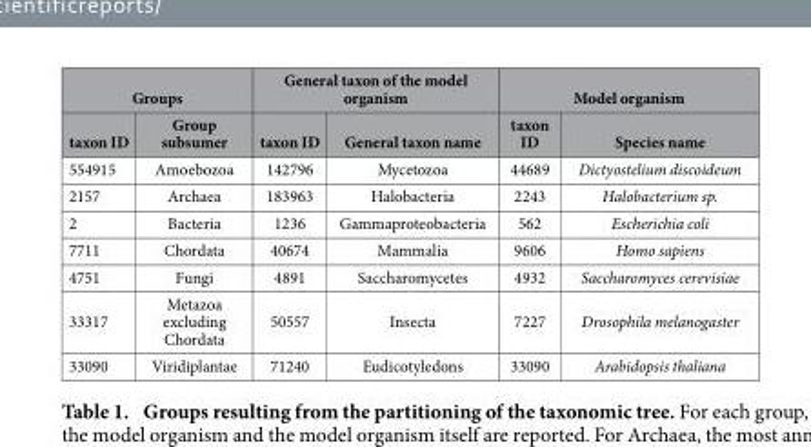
<table><thead><tr><td colspan="2">Groups</td><td colspan="2">General taxon of the model organism</td><td colspan="2">Model organism</td></tr><tr><td>taxon ID</td><td>Group subsumer</td><td>taxon ID</td><td>General taxon name</td><td>taxon ID</td><td>Species name</td></tr></thead><tbody><tr><td>554915</td><td>Amoebozoa</td><td>142796</td><td>Mycetozoa</td><td>44689</td><td>Dictyostelium discoideum</td></tr><tr><td>2157</td><td>Archaea</td><td>183963</td><td>Halobacteria</td><td>2243</td><td>Halobacterium sp.</td></tr><tr><td>2</td><td>Bacteria</td><td>1236</td><td>Gammaproteobacteria</td><td>562</td><td>Escherichia coli</td></tr><tr><td>7711</td><td>Chordata</td><td>40674</td><td>Mammalia</td><td>9606</td><td>Homo sapiens</td></tr><tr><td>4751</td><td>Fungi</td><td>4891</td><td>Saccharomycetes</td><td>4932</td><td>Saccharomyces cerevisiae</td></tr><tr><td>33317</td><td>Metazoa excluding Chordata</td><td>50557</td><td>Insecta</td><td>7227</td><td>Drosophila melanogaster</td></tr><tr><td>33090</td><td>Viridiplantae</td><td>71240</td><td>Eudicotyledons</td><td>33090</td><td>Arabidopsis thaliana</td></tr></tbody></table>